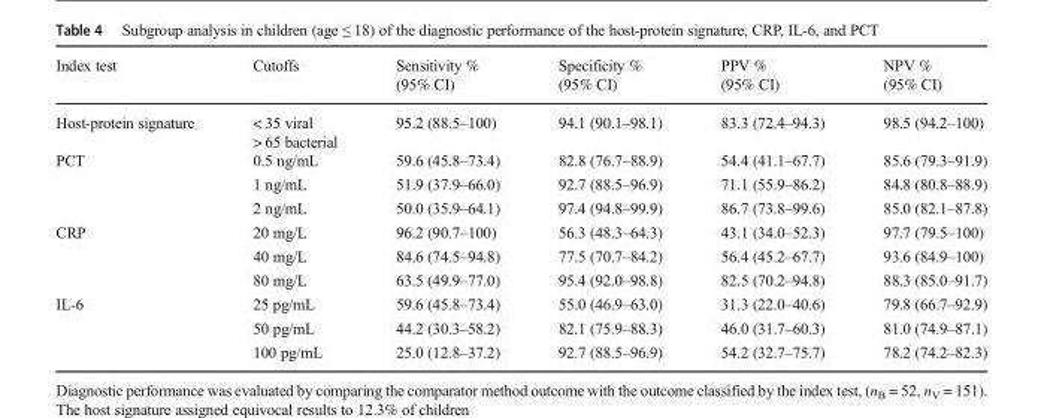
<table><thead><tr><td>Index test</td><td>Cutoffs</td><td>Sensitivity % (95% CI)</td><td>Specificity % (95% CI)</td><td>PPV % (95% CI)</td><td>NPV % (95% CI)</td></tr></thead><tbody><tr><td>Host-protein signature</td><td>&lt; 35 viral &gt; 65 bacterial</td><td>95.2 (88.5–100)</td><td>94.1 (90.1–98.1)</td><td>83.3 (72.4–94.3)</td><td>98.5 (94.2–100)</td></tr><tr><td rowspan="3">PCT</td><td>0.5 ng/mL</td><td>59.6 (45.8–73.4)</td><td>82.8 (76.7–88.9)</td><td>54.4 (41.1–67.7)</td><td>85.6 (79.3–91.9)</td></tr><tr><td>1 ng/mL</td><td>51.9 (37.9–66.0)</td><td>92.7 (88.5–96.9)</td><td>71.1 (55.9–86.2)</td><td>84.8 (80.8–88.9)</td></tr><tr><td>2 ng/mL</td><td>50.0 (35.9–64.1)</td><td>97.4 (94.8–99.9)</td><td>86.7 (73.8–99.6)</td><td>85.0 (82.1–87.8)</td></tr><tr><td rowspan="3">CRP</td><td>20 mg/L</td><td>96.2 (90.7–100)</td><td>56.3 (48.3–64.3)</td><td>43.1 (34.0–52.3)</td><td>97.7 (79.5–100)</td></tr><tr><td>40 mg/L</td><td>84.6 (74.5–94.8)</td><td>77.5 (70.7–84.2)</td><td>56.4 (45.2–67.7)</td><td>93.6 (84.9–100)</td></tr><tr><td>80 mg/L</td><td>63.5 (49.9–77.0)</td><td>95.4 (92.0–98.8)</td><td>82.5 (70.2–94.8)</td><td>88.3 (85.0–91.7)</td></tr><tr><td rowspan="3">IL-6</td><td>25 pg/mL</td><td>59.6 (45.8–73.4)</td><td>55.0 (46.9–63.0)</td><td>31.3 (22.0–40.6)</td><td>79.8 (66.7–92.9)</td></tr><tr><td>50 pg/mL</td><td>44.2 (30.3–58.2)</td><td>82.1 (75.9–88.3)</td><td>46.0 (31.7–60.3)</td><td>81.0 (74.9–87.1)</td></tr><tr><td>100 pg/mL</td><td>25.0 (12.8–37.2)</td><td>92.7 (88.5–96.9)</td><td>54.2 (32.7–75.7)</td><td>78.2 (74.2–82.3)</td></tr></tbody></table>